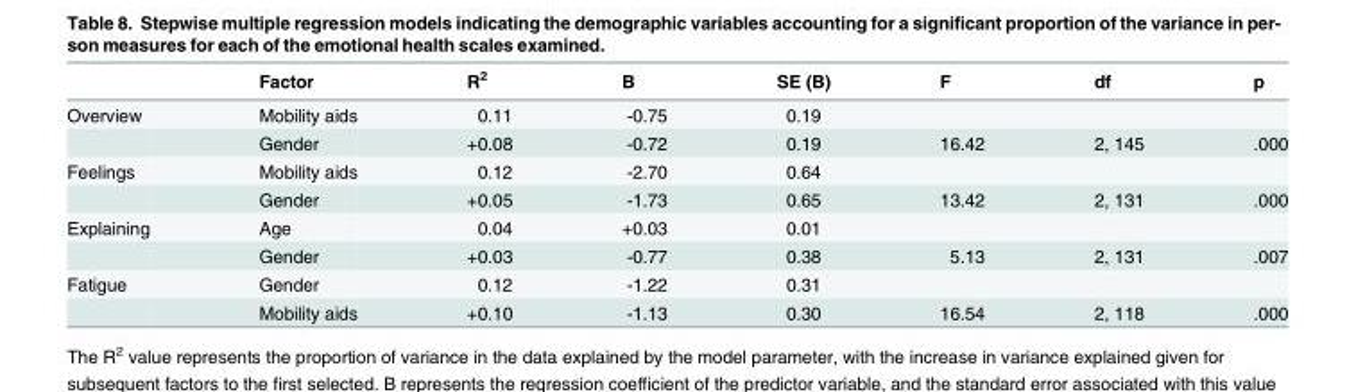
<table><thead><tr><td></td><td>Factor</td><td>R<sup>2</sup></td><td>B</td><td>SE (B)</td><td>F</td><td>df</td><td>p</td></tr></thead><tbody><tr><td rowspan="2">Overview</td><td>Mobility aids</td><td>0.11</td><td>-0.75</td><td>0.19</td><td></td><td></td><td></td></tr><tr><td>Gender</td><td>+0.08</td><td>-0.72</td><td>0.19</td><td>16.42</td><td>2, 145</td><td>.000</td></tr><tr><td rowspan="2">Feelings</td><td>Mobility aids</td><td>0.12</td><td>-2.70</td><td>0.64</td><td></td><td></td><td></td></tr><tr><td>Gender</td><td>+0.05</td><td>-1.73</td><td>0.65</td><td>13.42</td><td>2, 131</td><td>.000</td></tr><tr><td rowspan="2">Explaining</td><td>Age</td><td>0.04</td><td>+0.03</td><td>0.01</td><td></td><td></td><td></td></tr><tr><td>Gender</td><td>+0.03</td><td>-0.77</td><td>0.38</td><td>5.13</td><td>2, 131</td><td>.007</td></tr><tr><td rowspan="2">Fatigue</td><td>Gender</td><td>0.12</td><td>-1.22</td><td>0.31</td><td></td><td></td><td></td></tr><tr><td>Mobility aids</td><td>+0.10</td><td>-1.13</td><td>0.30</td><td>16.54</td><td>2, 118</td><td>.000</td></tr></tbody></table>